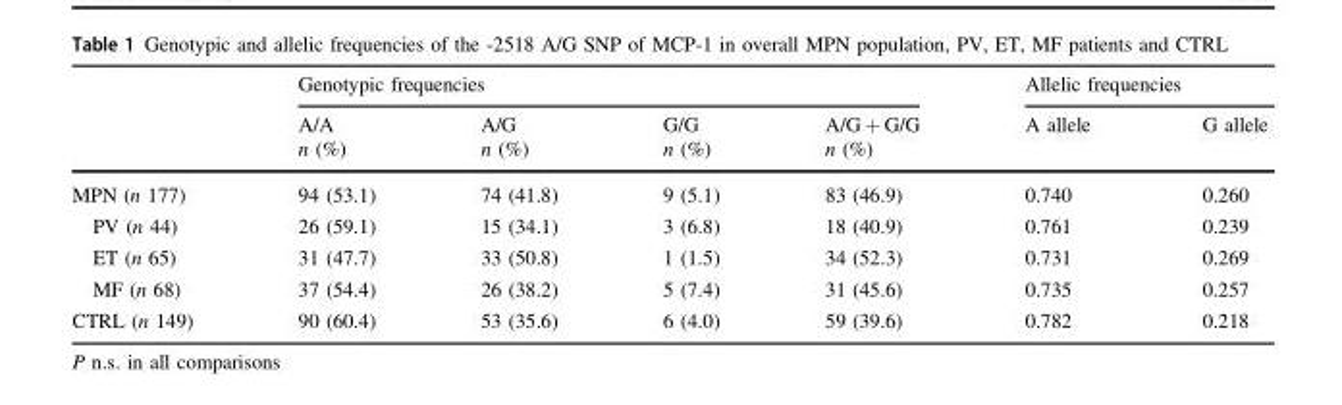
<table><thead><tr><td rowspan="2"></td><td colspan="4">Genotypic frequencies</td><td colspan="2">Allelic frequencies</td></tr><tr><td>A/A n (%)</td><td>A/G n (%)</td><td>G/G n (%)</td><td>A/G + G/G n (%)</td><td>A allele</td><td>G allele</td></tr></thead><tbody><tr><td>MPN (n 177)</td><td>94 (53.1)</td><td>74 (41.8)</td><td>9 (5.1)</td><td>83 (46.9)</td><td>0.740</td><td>0.260</td></tr><tr><td>PV (n 44)</td><td>26 (59.1)</td><td>15 (34.1)</td><td>3 (6.8)</td><td>18 (40.9)</td><td>0.761</td><td>0.239</td></tr><tr><td>ET (n 65)</td><td>31 (47.7)</td><td>33 (50.8)</td><td>1 (1.5)</td><td>34 (52.3)</td><td>0.731</td><td>0.269</td></tr><tr><td>MF (n 68)</td><td>37 (54.4)</td><td>26 (38.2)</td><td>5 (7.4)</td><td>31 (45.6)</td><td>0.735</td><td>0.257</td></tr><tr><td>CTRL (n 149)</td><td>90 (60.4)</td><td>53 (35.6)</td><td>6 (4.0)</td><td>59 (39.6)</td><td>0.782</td><td>0.218</td></tr></tbody></table>